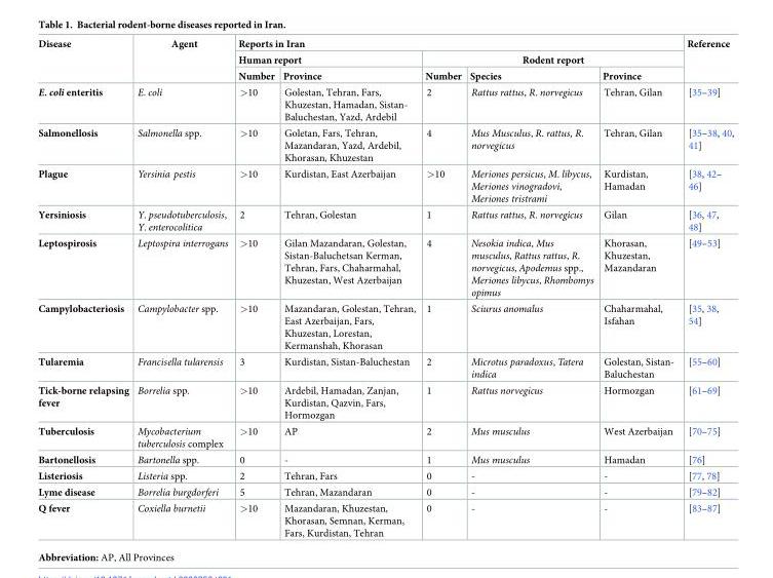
<table><thead><tr><td rowspan="3">Disease</td><td rowspan="3">Agent</td><td colspan="5">Reports in Iran</td><td rowspan="3">Reference</td></tr><tr><td colspan="2">Human report</td><td colspan="3">Rodent report</td></tr><tr><td>Number</td><td>Province</td><td>Number</td><td>Species</td><td>Province</td></tr></thead><tbody><tr><td>E. coli enteritis</td><td>E. coli</td><td>&gt;10</td><td>Golestan, Tehran, Fars, Khuzestan, Hamadan, Sistan- Baluchestan, Yazd, Ardebil</td><td>2</td><td>Rattus rattus, R. norvegicus</td><td>Tehran, Gilan</td><td>[35–39]</td></tr><tr><td>Salmonellosis</td><td>Salmonella spp.</td><td>&gt;10</td><td>Goletan, Fars, Tehran, Mazandaran, Yazd, Ardebil, Khorasan, Khuzestan</td><td>4</td><td>Mus Musculus, R. rattus, R. norvegicus</td><td>Tehran, Gilan</td><td>[35–38, 40, 41]</td></tr><tr><td>Plague</td><td>Yersinia pestis</td><td>&gt;10</td><td>Kurdistan, East Azerbaijan</td><td>&gt;10</td><td>Meriones persicus, M. libycus, Meriones vinogradovi, Meriones tristrami</td><td>Kurdistan, Hamadan</td><td>[38, 42– 46]</td></tr><tr><td>Yersiniosis</td><td>Y. pseudotuberculosis, Y. enterocolitica</td><td>2</td><td>Tehran, Golestan</td><td>1</td><td>Rattus rattus, R. norvegicus</td><td>Gilan</td><td>[36, 47, 48]</td></tr><tr><td>Leptospirosis</td><td>Leptospira interrogans</td><td>&gt;10</td><td>Gilan Mazandaran, Golestan, Sistan-Baluchetsan Kerman, Tehran, Fars, Chaharmahal, Khuzestan, West Azerbaijan</td><td>4</td><td>Nesokia indica, Mus musculus, Rattus rattus, R. norvegicus, Apodemus spp., Meriones libycus, Rhombomys opimus</td><td>Khorasan, Khuzestan, Mazandaran</td><td>[49–53]</td></tr><tr><td>Campylobacteriosis</td><td>Campylobacter spp.</td><td>&gt;10</td><td>Mazandaran, Golestan, Tehran, East Azerbaijan, Fars, Khuzestan, Lorestan, Kermanshah, Khorasan</td><td>1</td><td>Sciurus anomalus</td><td>Chaharmahal, Isfahan</td><td>[35, 38, 54]</td></tr><tr><td>Tularemia</td><td>Francisella tularensis</td><td>3</td><td>Kurdistan, Sistan-Baluchestan</td><td>2</td><td>Microtus paradoxus, Tatera indica</td><td>Golestan, Sistan- Baluchestan</td><td>[55–60]</td></tr><tr><td>Tick-borne relapsing fever</td><td>Borrelia spp.</td><td>&gt;10</td><td>Ardebil, Hamadan, Zanjan, Kurdistan, Qazvin, Fars, Hormozgan</td><td>1</td><td>Rattus norvegicus</td><td>Hormozgan</td><td>[61–69]</td></tr><tr><td>Tuberculosis</td><td>Mycobacterium tuberculosis complex</td><td>&gt;10</td><td>AP</td><td>2</td><td>Mus musculus</td><td>West Azerbaijan</td><td>[70–75]</td></tr><tr><td>Bartonellosis</td><td>Bartonella spp.</td><td>0</td><td>-</td><td>1</td><td>Mus musculus</td><td>Hamadan</td><td>[76]</td></tr><tr><td>Listeriosis</td><td>Listeria spp.</td><td>2</td><td>Tehran, Fars</td><td>0</td><td>-</td><td>-</td><td>[77, 78]</td></tr><tr><td>Lyme disease</td><td>Borrelia burgdorferi</td><td>5</td><td>Tehran, Mazandaran</td><td>0</td><td>-</td><td>-</td><td>[79–82]</td></tr><tr><td>Q fever</td><td>Coxiella burnetii</td><td>&gt;10</td><td>Mazandaran, Khuzestan, Khorasan, Semnan, Kerman, Fars, Kurdistan, Tehran</td><td>0</td><td>-</td><td>-</td><td>[83–87]</td></tr></tbody></table>